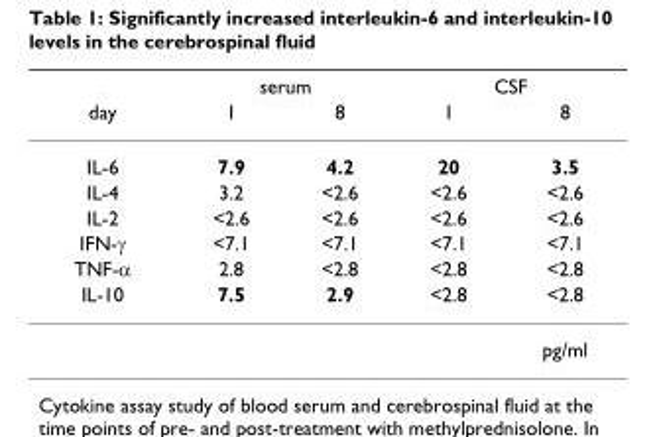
<table><thead><tr><td rowspan="2">day</td><td colspan="2">serum</td><td colspan="2">CSF</td></tr><tr><td>1</td><td>8</td><td>1</td><td>8</td></tr></thead><tbody><tr><td>IL-6</td><td>7.9</td><td>4.2</td><td>20</td><td>3.5</td></tr><tr><td>IL-4</td><td>3.2</td><td>&lt;2.6</td><td>&lt;2.6</td><td>&lt;2.6</td></tr><tr><td>IL-2</td><td>&lt;2.6</td><td>&lt;2.6</td><td>&lt;2.6</td><td>&lt;2.6</td></tr><tr><td>IFN-γ</td><td>&lt;7.1</td><td>&lt;7.1</td><td>&lt;7.1</td><td>&lt;7.1</td></tr><tr><td>TNF-α</td><td>2.8</td><td>&lt;2.8</td><td>&lt;2.8</td><td>&lt;2.8</td></tr><tr><td rowspan="2">IL-10</td><td>7.5</td><td>2.9</td><td>&lt;2.8</td><td>&lt;2.8</td></tr><tr><td></td><td></td><td></td><td>pg/ml</td></tr></tbody></table>